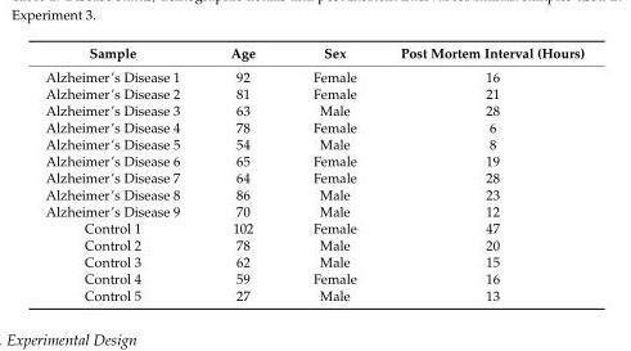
<table><thead><tr><td>Sample</td><td>Age</td><td>Sex</td><td>Post Mortem Interval (Hours)</td></tr></thead><tbody><tr><td>Alzheimer’s Disease 1</td><td>92</td><td>Female</td><td>16</td></tr><tr><td>Alzheimer’s Disease 2</td><td>81</td><td>Female</td><td>21</td></tr><tr><td>Alzheimer’s Disease 3</td><td>63</td><td>Male</td><td>28</td></tr><tr><td>Alzheimer’s Disease 4</td><td>78</td><td>Female</td><td>6</td></tr><tr><td>Alzheimer’s Disease 5</td><td>54</td><td>Male</td><td>8</td></tr><tr><td>Alzheimer’s Disease 6</td><td>65</td><td>Female</td><td>19</td></tr><tr><td>Alzheimer’s Disease 7</td><td>64</td><td>Female</td><td>28</td></tr><tr><td>Alzheimer’s Disease 8</td><td>86</td><td>Male</td><td>23</td></tr><tr><td>Alzheimer’s Disease 9</td><td>70</td><td>Male</td><td>12</td></tr><tr><td>Control 1</td><td>102</td><td>Female</td><td>47</td></tr><tr><td>Control 2</td><td>78</td><td>Male</td><td>20</td></tr><tr><td>Control 3</td><td>62</td><td>Male</td><td>15</td></tr><tr><td>Control 4</td><td>59</td><td>Female</td><td>16</td></tr><tr><td>Control 5</td><td>27</td><td>Male</td><td>13</td></tr></tbody></table>